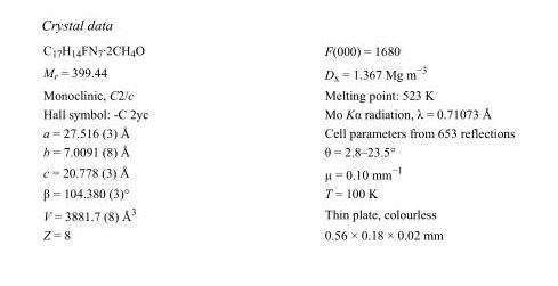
<table><tbody><tr><td>C<sub>17</sub>H<sub>14</sub>FN<sub>7</sub>·2CH<sub>4</sub>O</td><td>F(000) = 1680</td></tr><tr><td>M<sub>r</sub> = 399.44</td><td>D<sub>x</sub> = 1.367 Mg m<sup>−3</sup></td></tr><tr><td>Monoclinic, C2/c</td><td>Melting point: 523 K</td></tr><tr><td>Hall symbol: -C 2yc</td><td>Mo Kα radiation, λ = 0.71073 Å</td></tr><tr><td>a = 27.516 (3) Å</td><td>Cell parameters from 653 reflections</td></tr><tr><td>b = 7.0091 (8) Å</td><td>θ = 2.8–23.5°</td></tr><tr><td>c = 20.778 (3) Å</td><td>µ = 0.10 mm<sup>−1</sup></td></tr><tr><td>β = 104.380 (3)°</td><td>T = 100 K</td></tr><tr><td>V = 3881.7 (8) Å<sup>3</sup></td><td>Thin plate, colourless</td></tr><tr><td>Z = 8</td><td>0.56 × 0.18 × 0.02 mm</td></tr></tbody></table>